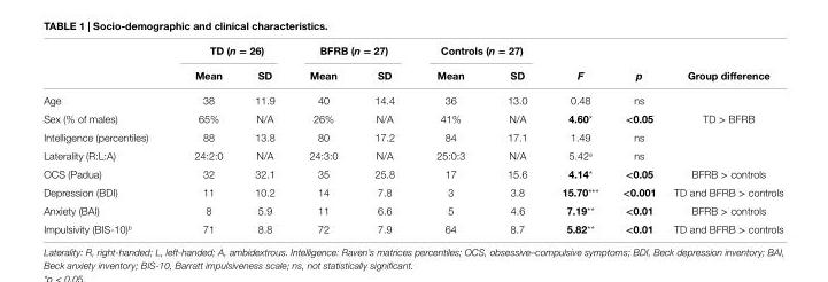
<table><thead><tr><td rowspan="2"></td><td colspan="2">TD (n = 26)</td><td colspan="2">BFrB (n = 27)</td><td colspan="2">controls (n = 27)</td><td rowspan="2">F</td><td rowspan="2">p</td><td rowspan="2">group difference</td></tr><tr><td>Mean</td><td>sD</td><td>Mean</td><td>sD</td><td>Mean</td><td>sD</td></tr></thead><tbody><tr><td>Age</td><td>38</td><td>11.9</td><td>40</td><td>14.4</td><td>36</td><td>13.0</td><td>0.48</td><td>ns</td><td></td></tr><tr><td>Sex (% of males)</td><td>65%</td><td>N/A</td><td>26%</td><td>N/A</td><td>41%</td><td>N/A</td><td>4.60*</td><td>&lt;0.05</td><td>TD &gt; BFRB</td></tr><tr><td>Intelligence (percentiles)</td><td>88</td><td>13.8</td><td>80</td><td>17.2</td><td>84</td><td>17.1</td><td>1.49</td><td>ns</td><td></td></tr><tr><td>Laterality (R:L:A)</td><td>24:2:0</td><td>N/A</td><td>24:3:0</td><td>N/A</td><td>25:0:3</td><td>N/A</td><td>5.42<sup>a</sup></td><td>ns</td><td></td></tr><tr><td>OCS (Padua)</td><td>32</td><td>32.1</td><td>35</td><td>25.8</td><td>17</td><td>15.6</td><td>4.14*</td><td>&lt;0.05</td><td>BFRB &gt; controls</td></tr><tr><td>Depression (BDI)</td><td>11</td><td>10.2</td><td>14</td><td>7.8</td><td>3</td><td>3.8</td><td>15.70***</td><td>&lt;0.001</td><td>TD and BFRB &gt; controls</td></tr><tr><td>Anxiety (BAI)</td><td>8</td><td>5.9</td><td>11</td><td>6.6</td><td>5</td><td>4.6</td><td>7.19**</td><td>&lt;0.01</td><td>BFRB &gt; controls</td></tr><tr><td>Impulsivity (BIS-10)<sup>b</sup></td><td>71</td><td>8.8</td><td>72</td><td>7.9</td><td>64</td><td>8.7</td><td>5.82**</td><td>&lt;0.01</td><td>TD and BFRB &gt; controls</td></tr></tbody></table>